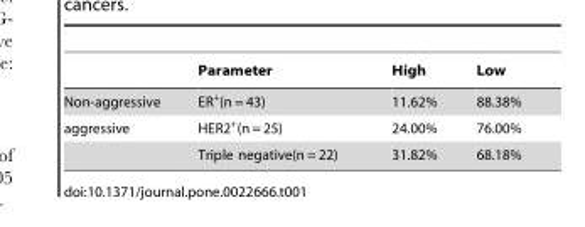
<table><thead><tr><td></td><td>Parameter</td><td>High</td><td>Low</td></tr></thead><tbody><tr><td>Non-aggressive</td><td>ER<sup>+</sup>(n = 43)</td><td>11.62%</td><td>88.38%</td></tr><tr><td rowspan="2">aggressive</td><td>HER2<sup>+</sup>(n = 25)</td><td>24.00%</td><td>76.00%</td></tr><tr><td>Triple negative(n = 22)</td><td>31.82%</td><td>68.18%</td></tr></tbody></table>